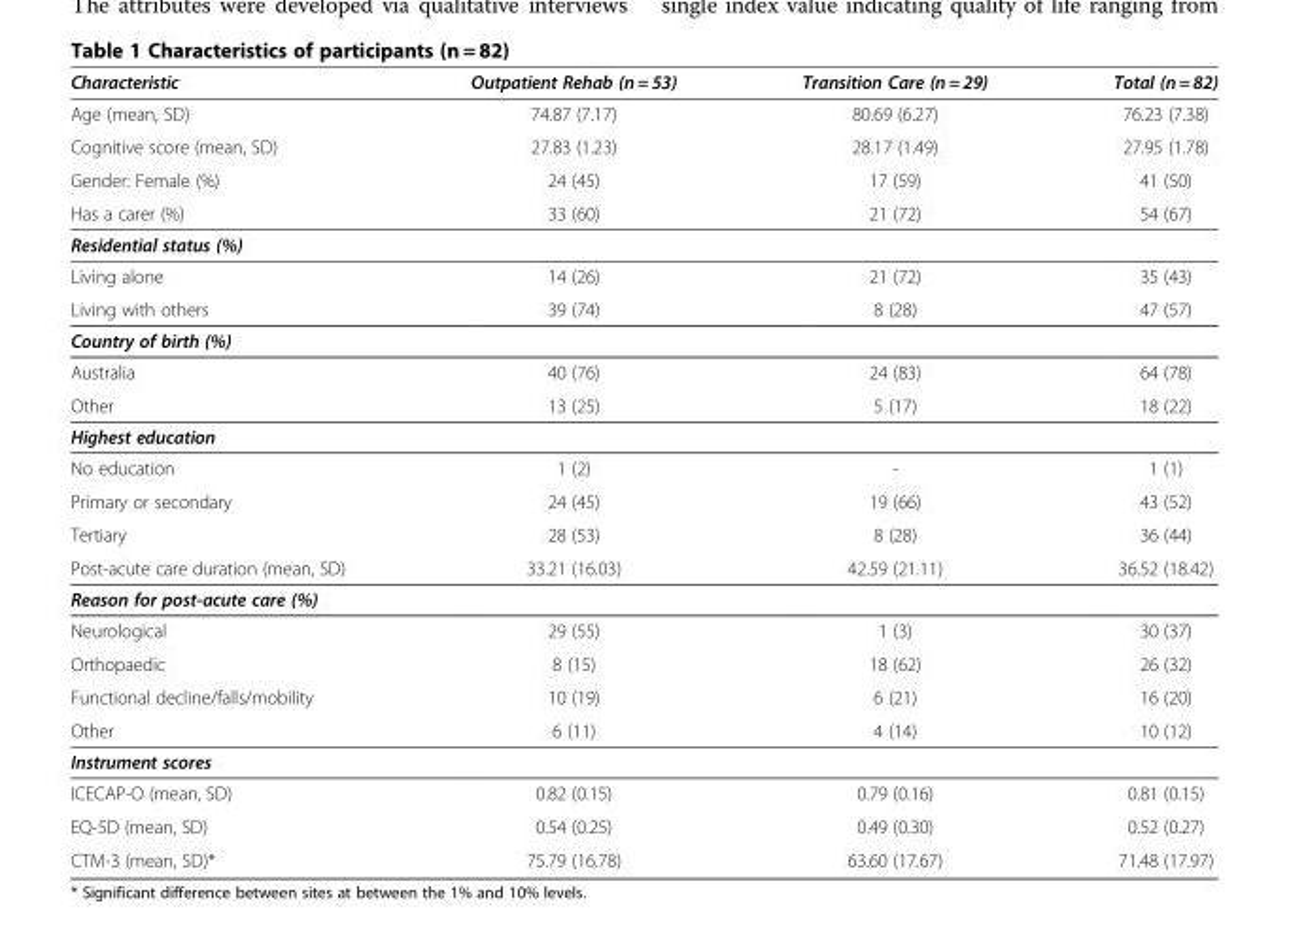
<table><thead><tr><td>Characteristic</td><td>Outpatient Rehab (n = 53)</td><td>Transition Care (n = 29)</td><td>Total (n = 82)</td></tr></thead><tbody><tr><td>Age (mean, SD)</td><td>74.87 (7.17)</td><td>80.69 (6.27)</td><td>76.23 (7.38)</td></tr><tr><td>Cognitive score (mean, SD)</td><td>27.83 (1.23)</td><td>28.17 (1.49)</td><td>27.95 (1.78)</td></tr><tr><td>Gender: Female (%)</td><td>24 (45)</td><td>17 (59)</td><td>41 (50)</td></tr><tr><td>Has a carer (%)</td><td>33 (60)</td><td>21 (72)</td><td>54 (67)</td></tr><tr><td colspan="4">Residential status (%)</td></tr><tr><td>Living alone</td><td>14 (26)</td><td>21 (72)</td><td>35 (43)</td></tr><tr><td>Living with others</td><td>39 (74)</td><td>8 (28)</td><td>47 (57)</td></tr><tr><td colspan="4">Country of birth (%)</td></tr><tr><td>Australia</td><td>40 (76)</td><td>24 (83)</td><td>64 (78)</td></tr><tr><td>Other</td><td>13 (25)</td><td>5 (17)</td><td>18 (22)</td></tr><tr><td colspan="4">Highest education</td></tr><tr><td>No education</td><td>1 (2)</td><td>-</td><td>1 (1)</td></tr><tr><td>Primary or secondary</td><td>24 (45)</td><td>19 (66)</td><td>43 (52)</td></tr><tr><td>Tertiary</td><td>28 (53)</td><td>8 (28)</td><td>36 (44)</td></tr><tr><td>Post-acute care duration (mean, SD)</td><td>33.21 (16.03)</td><td>42.59 (21.11)</td><td>36.52 (18.42)</td></tr><tr><td colspan="4">Reason for post-acute care (%)</td></tr><tr><td>Neurological</td><td>29 (55)</td><td>1 (3)</td><td>30 (37)</td></tr><tr><td>Orthopaedic</td><td>8 (15)</td><td>18 (62)</td><td>26 (32)</td></tr><tr><td>Functional decline/falls/mobility</td><td>10 (19)</td><td>6 (21)</td><td>16 (20)</td></tr><tr><td>Other</td><td>6 (11)</td><td>4 (14)</td><td>10 (12)</td></tr><tr><td colspan="4">Instrument scores</td></tr><tr><td>ICECAP-O (mean, SD)</td><td>0.82 (0.15)</td><td>0.79 (0.16)</td><td>0.81 (0.15)</td></tr><tr><td>EQ-5D (mean, SD)</td><td>0.54 (0.25)</td><td>0.49 (0.30)</td><td>0.52 (0.27)</td></tr><tr><td>CTM-3 (mean, SD)*</td><td>75.79 (16.78)</td><td>63.60 (17.67)</td><td>71.48 (17.97)</td></tr></tbody></table>